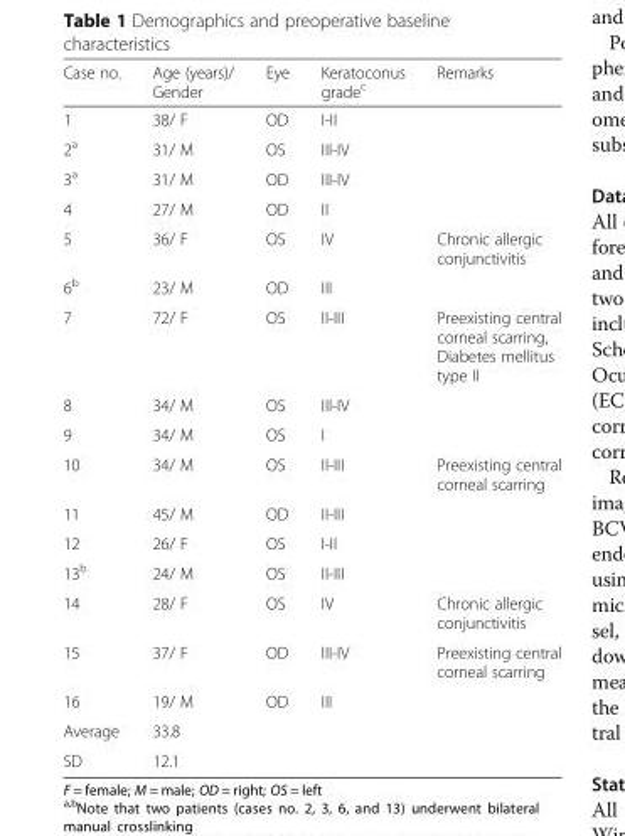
<table><thead><tr><td>Case no.</td><td>Age (years)/ Gender</td><td>Eye</td><td>Keratoconus grade<sup>c</sup></td><td>Remarks</td></tr></thead><tbody><tr><td>1</td><td>38/ F</td><td>OD</td><td>I-II</td><td></td></tr><tr><td>2<sup>a</sup></td><td>31/ M</td><td>OS</td><td>III-IV</td><td></td></tr><tr><td>3<sup>a</sup></td><td>31/ M</td><td>OD</td><td>III-IV</td><td></td></tr><tr><td>4</td><td>27/ M</td><td>OD</td><td>II</td><td></td></tr><tr><td>5</td><td>36/ F</td><td>OS</td><td>IV</td><td>Chronic allergic conjunctivitis</td></tr><tr><td>6<sup>b</sup></td><td>23/ M</td><td>OD</td><td>III</td><td></td></tr><tr><td>7</td><td>72/ F</td><td>OS</td><td>II-III</td><td>Preexisting central corneal scarring, Diabetes mellitus type II</td></tr><tr><td>8</td><td>34/ M</td><td>OS</td><td>III-IV</td><td></td></tr><tr><td>9</td><td>34/ M</td><td>OS</td><td>I</td><td></td></tr><tr><td>10</td><td>34/ M</td><td>OS</td><td>II-III</td><td>Preexisting central corneal scarring</td></tr><tr><td>11</td><td>45/ M</td><td>OD</td><td>II-III</td><td></td></tr><tr><td>12</td><td>26/ F</td><td>OS</td><td>I-II</td><td></td></tr><tr><td>13<sup>b</sup></td><td>24/ M</td><td>OS</td><td>II-III</td><td></td></tr><tr><td>14</td><td>28/ F</td><td>OS</td><td>IV</td><td>Chronic allergic conjunctivitis</td></tr><tr><td>15</td><td>37/ F</td><td>OD</td><td>III-IV</td><td>Preexisting central corneal scarring</td></tr><tr><td>16</td><td>19/ M</td><td>OD</td><td>III</td><td></td></tr><tr><td>Average</td><td>33.8</td><td></td><td></td><td></td></tr><tr><td>SD</td><td>12.1</td><td></td><td></td><td></td></tr></tbody></table>